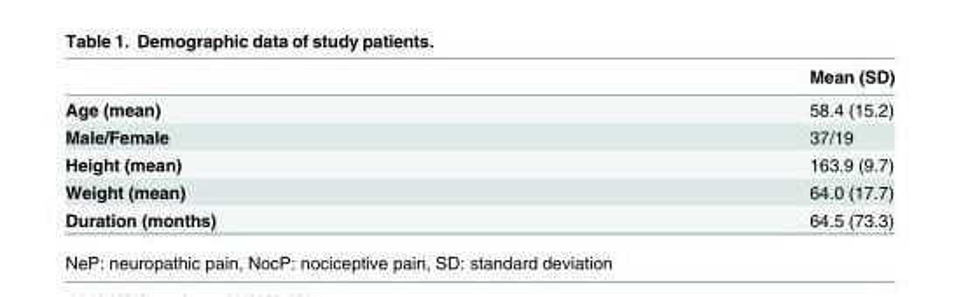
<table><thead><tr><td></td><td>Mean (SD)</td></tr></thead><tbody><tr><td>Age (mean)</td><td>58.4 (15.2)</td></tr><tr><td>Male/Female</td><td>37/19</td></tr><tr><td>Height (mean)</td><td>163.9 (9.7)</td></tr><tr><td>Weight (mean)</td><td>64.0 (17.7)</td></tr><tr><td>Duration (months)</td><td>64.5 (73.3)</td></tr></tbody></table>